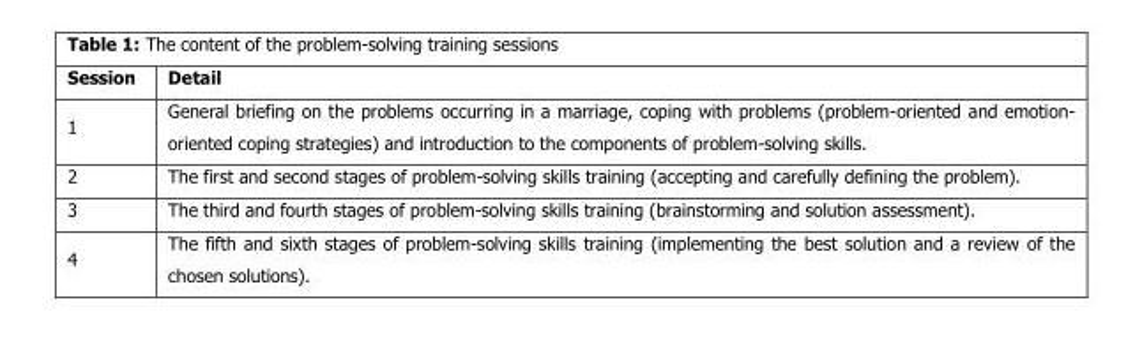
<table><thead><tr><td>Session</td><td>Detail</td></tr></thead><tbody><tr><td>1</td><td>General briefing on the problems occurring in a marriage, coping with problems (problem-oriented and emotion- oriented coping strategies) and introduction to the components of problem-solving skills.</td></tr><tr><td>2</td><td>The first and second stages of problem-solving skills training (accepting and carefully defining the problem).</td></tr><tr><td>3</td><td>The third and fourth stages of problem-solving skills training (brainstorming and solution assessment).</td></tr><tr><td>4</td><td>The fifth and sixth stages of problem-solving skills training (implementing the best solution and a review of the chosen solutions).</td></tr></tbody></table>